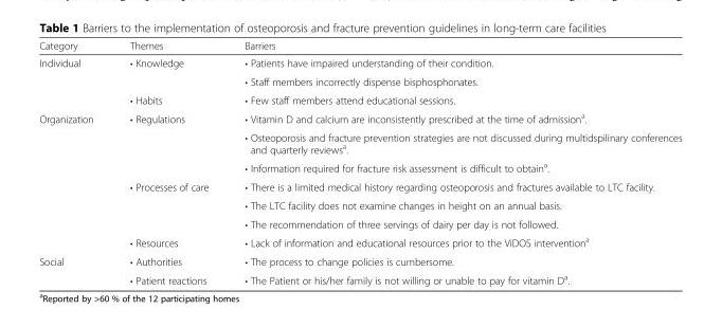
<table><thead><tr><td>Category</td><td>Themes</td><td>Barriers</td></tr></thead><tbody><tr><td rowspan="3">Individual</td><td rowspan="2">• Knowledge</td><td>• Patients have impaired understanding of their condition.</td></tr><tr><td>• Staff members incorrectly dispense bisphosphonates.</td></tr><tr><td>• Habits</td><td>• Few staff members attend educational sessions.</td></tr><tr><td rowspan="7">Organization</td><td rowspan="3">• Regulations</td><td>• Vitamin D and calcium are inconsistently prescribed at the time of admission<sup>a</sup>.</td></tr><tr><td>• Osteoporosis and fracture prevention strategies are not discussed during multidspilinary conferences and quarterly reviews<sup>a</sup>.</td></tr><tr><td>• Information required for fracture risk assessment is difficult to obtain<sup>a</sup>.</td></tr><tr><td rowspan="3">• Processes of care</td><td>• There is a limited medical history regarding osteoporosis and fractures available to LTC facility.</td></tr><tr><td>• The LTC facility does not examine changes in height on an annual basis.</td></tr><tr><td>• The recommendation of three servings of dairy per day is not followed.</td></tr><tr><td>• Resources</td><td>• Lack of information and educational resources prior to the ViDOS intervention<sup>a</sup></td></tr><tr><td rowspan="2">Social</td><td>• Authorities</td><td>• The process to change policies is cumbersome.</td></tr><tr><td>• Patient reactions</td><td>• The Patient or his/her family is not willing or unable to pay for vitamin D<sup>a</sup>.</td></tr></tbody></table>